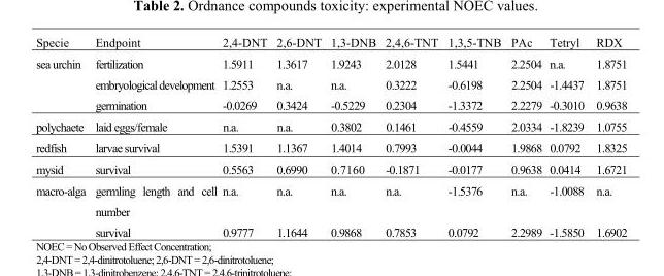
<table><thead><tr><td>Specie</td><td>Endpoint</td><td>2,4-DNT</td><td>2,6-DNT</td><td>1,3-DNB</td><td>2,4,6-TNT</td><td>1,3,5-TNB</td><td>PAc</td><td>Tetryl</td><td>RDX</td></tr></thead><tbody><tr><td rowspan="3">sea urchin</td><td>fertilization</td><td>1.5911</td><td>1.3617</td><td>1.9243</td><td>2.0128</td><td>1.5441</td><td>2.2504</td><td>n.a.</td><td>1.8751</td></tr><tr><td>embryological development</td><td>1.2553</td><td>n.a.</td><td>n.a.</td><td>0.3222</td><td>-0.6198</td><td>2.2504</td><td>-1.4437</td><td>1.8751</td></tr><tr><td>germination</td><td>-0.0269</td><td>0.3424</td><td>-0.5229</td><td>0.2304</td><td>-1.3372</td><td>2.2279</td><td>-0.3010</td><td>0.9638</td></tr><tr><td>polychaete</td><td>laid eggs/female</td><td>n.a.</td><td>n.a.</td><td>0.3802</td><td>0.1461</td><td>-0.4559</td><td>2.0334</td><td>-1.8239</td><td>1.0755</td></tr><tr><td>redfish</td><td>larvae survival</td><td>1.5391</td><td>1.1367</td><td>1.4014</td><td>0.7993</td><td>-0.0044</td><td>1.9868</td><td>0.0792</td><td>1.8325</td></tr><tr><td>mysid</td><td>survival</td><td>0.5563</td><td>0.6990</td><td>0.7160</td><td>-0.1871</td><td>-0.0177</td><td>0.9638</td><td>0.0414</td><td>1.6721</td></tr><tr><td rowspan="2">macro-alga</td><td>germling length and cell number</td><td>n.a.</td><td>n.a.</td><td>n.a.</td><td>n.a.</td><td>-1.5376</td><td>n.a.</td><td>-1.0088</td><td>n.a.</td></tr><tr><td>survival</td><td>0.9777</td><td>1.1644</td><td>0.9868</td><td>0.7853</td><td>0.0792</td><td>2.2989</td><td>-1.5850</td><td>1.6902</td></tr></tbody></table>